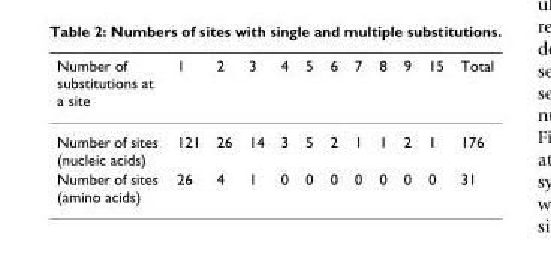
<table><thead><tr><td>Number of substitutions at a site</td><td>1</td><td>2</td><td>3</td><td>4</td><td>5</td><td>6</td><td>7</td><td>8</td><td>9</td><td>15</td><td>Total</td></tr></thead><tbody><tr><td>Number of sites (nucleic acids)</td><td>121</td><td>26</td><td>14</td><td>3</td><td>5</td><td>2</td><td>1</td><td>1</td><td>2</td><td>1</td><td>176</td></tr><tr><td>Number of sites (amino acids)</td><td>26</td><td>4</td><td>1</td><td>0</td><td>0</td><td>0</td><td>0</td><td>0</td><td>0</td><td>0</td><td>31</td></tr></tbody></table>